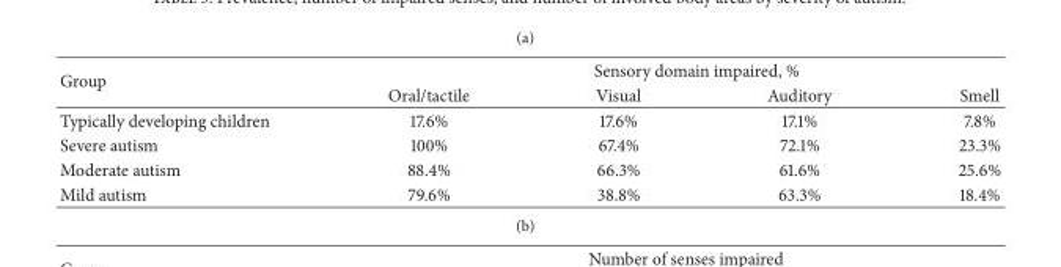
<table><thead><tr><td rowspan="2">Group</td><td colspan="4">Sensory domain impaired, %</td></tr><tr><td>Oral/tactile</td><td>Visual</td><td>Auditory</td><td>Smell</td></tr></thead><tbody><tr><td>Typically developing children</td><td>17.6%</td><td>17.6%</td><td>17.1%</td><td>7.8%</td></tr><tr><td>Severe autism</td><td>100%</td><td>67.4%</td><td>72.1%</td><td>23.3%</td></tr><tr><td>Moderate autism</td><td>88.4%</td><td>66.3%</td><td>61.6%</td><td>25.6%</td></tr><tr><td>Mild autism</td><td>79.6%</td><td>38.8%</td><td>63.3%</td><td>18.4%</td></tr></tbody></table>